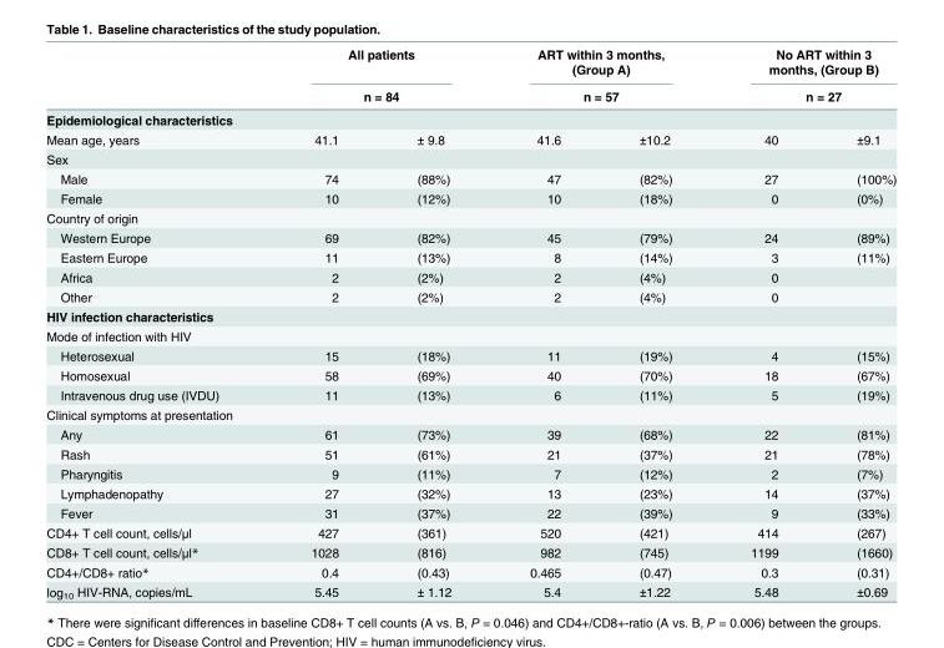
<table><thead><tr><td rowspan="3">Epidemiological characteristics</td><td rowspan="2" colspan="2">All patients n = 84</td><td rowspan="2" colspan="2">ART within 3 months, (Group A) n = 57</td><td rowspan="2" colspan="2">No ART within 3 months, (Group B) n = 27</td></tr><tr></tr><tr><td></td><td></td><td></td><td></td><td></td><td></td></tr></thead><tbody><tr><td>Mean age, years</td><td>41.1</td><td>± 9.8</td><td>41.6</td><td>±10.2</td><td>40</td><td>±9.1</td></tr><tr><td colspan="7">Sex</td></tr><tr><td>Male</td><td>74</td><td>(88%)</td><td>47</td><td>(82%)</td><td>27</td><td>(100%)</td></tr><tr><td>Female</td><td>10</td><td>(12%)</td><td>10</td><td>(18%)</td><td>0</td><td>(0%)</td></tr><tr><td colspan="7">Country of origin</td></tr><tr><td>Western Europe</td><td>69</td><td>(82%)</td><td>45</td><td>(79%)</td><td>24</td><td>(89%)</td></tr><tr><td>Eastern Europe</td><td>11</td><td>(13%)</td><td>8</td><td>(14%)</td><td>3</td><td>(11%)</td></tr><tr><td>Africa</td><td>2</td><td>(2%)</td><td>2</td><td>(4%)</td><td>0</td><td></td></tr><tr><td>Other</td><td>2</td><td>(2%)</td><td>2</td><td>(4%)</td><td>0</td><td></td></tr><tr><td colspan="7">HIV infection characteristics</td></tr><tr><td colspan="7">Mode of infection with HIV</td></tr><tr><td>Heterosexual</td><td>15</td><td>(18%)</td><td>11</td><td>(19%)</td><td>4</td><td>(15%)</td></tr><tr><td>Homosexual</td><td>58</td><td>(69%)</td><td>40</td><td>(70%)</td><td>18</td><td>(67%)</td></tr><tr><td>Intravenous drug use (IVDU)</td><td>11</td><td>(13%)</td><td>6</td><td>(11%)</td><td>5</td><td>(19%)</td></tr><tr><td colspan="7">Clinical symptoms at presentation</td></tr><tr><td>Any</td><td>61</td><td>(73%)</td><td>39</td><td>(68%)</td><td>22</td><td>(81%)</td></tr><tr><td>Rash</td><td>51</td><td>(61%)</td><td>21</td><td>(37%)</td><td>21</td><td>(78%)</td></tr><tr><td>Pharyngitis</td><td>9</td><td>(11%)</td><td>7</td><td>(12%)</td><td>2</td><td>(7%)</td></tr><tr><td>Lymphadenopathy</td><td>27</td><td>(32%)</td><td>13</td><td>(23%)</td><td>14</td><td>(37%)</td></tr><tr><td>Fever</td><td>31</td><td>(37%)</td><td>22</td><td>(39%)</td><td>9</td><td>(33%)</td></tr><tr><td>CD4+ T cell count, cells/μl</td><td>427</td><td>(361)</td><td>520</td><td>(421)</td><td>414</td><td>(267)</td></tr><tr><td>CD8+ T cell count, cells/μl*</td><td>1028</td><td>(816)</td><td>982</td><td>(745)</td><td>1199</td><td>(1660)</td></tr><tr><td>CD4+/CD8+ ratio*</td><td>0.4</td><td>(0.43)</td><td>0.465</td><td>(0.47)</td><td>0.3</td><td>(0.31)</td></tr><tr><td>log<sub>10</sub> HIV-RNA, copies/mL</td><td>5.45</td><td>± 1.12</td><td>5.4</td><td>±1.22</td><td>5.48</td><td>±0.69</td></tr></tbody></table>